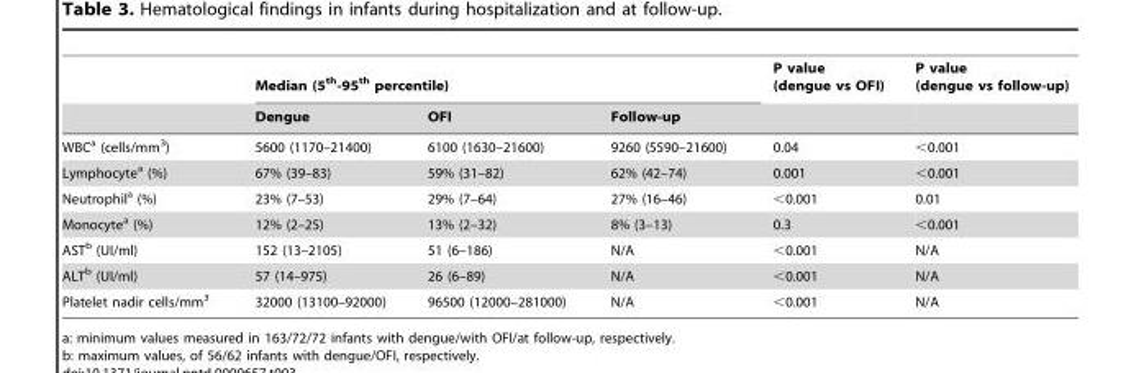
<table><thead><tr><td rowspan="2"></td><td colspan="3">Median (5<sup>th</sup>-95<sup>th</sup> percentile)</td><td rowspan="2">P value (dengue vs OFI)</td><td rowspan="2">P value (dengue vs follow-up)</td></tr><tr><td>Dengue</td><td>OFI</td><td>Follow-up</td></tr></thead><tbody><tr><td>WBC<sup>a</sup> (cells/mm<sup>3</sup>)</td><td>5600 (1170–21400)</td><td>6100 (1630–21600)</td><td>9260 (5590–21600)</td><td>0.04</td><td>&lt;0.001</td></tr><tr><td>Lymphocyte<sup>a</sup> (%)</td><td>67% (39–83)</td><td>59% (31–82)</td><td>62% (42–74)</td><td>0.001</td><td>&lt;0.001</td></tr><tr><td>Neutrophil<sup>a</sup> (%)</td><td>23% (7–53)</td><td>29% (7–64)</td><td>27% (16–46)</td><td>&lt;0.001</td><td>0.01</td></tr><tr><td>Monocyte<sup>a</sup> (%)</td><td>12% (2–25)</td><td>13% (2–32)</td><td>8% (3–13)</td><td>0.3</td><td>&lt;0.001</td></tr><tr><td>AST<sup>b</sup> (UI/ml)</td><td>152 (13–2105)</td><td>51 (6–186)</td><td>N/A</td><td>&lt;0.001</td><td>N/A</td></tr><tr><td>ALT<sup>b</sup> (UI/ml)</td><td>57 (14–975)</td><td>26 (6–89)</td><td>N/A</td><td>&lt;0.001</td><td>N/A</td></tr><tr><td>Platelet nadir cells/mm<sup>3</sup></td><td>32000 (13100–92000)</td><td>96500 (12000–281000)</td><td>N/A</td><td>&lt;0.001</td><td>N/A</td></tr></tbody></table>